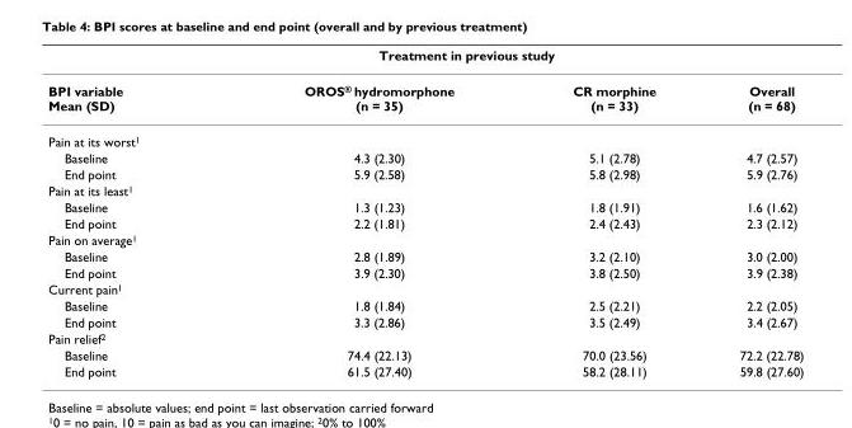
<table><thead><tr><td rowspan="2">BPI variable Mean (SD)</td><td colspan="2">Treatment in previous study</td><td rowspan="2">Overall (n = 68)</td></tr><tr><td>OROS® hydromorphone (n = 35)</td><td>CR morphine (n = 33)</td></tr></thead><tbody><tr><td colspan="4">Pain at its worst<sup>1</sup></td></tr><tr><td>Baseline</td><td>4.3 (2.30)</td><td>5.1 (2.78)</td><td>4.7 (2.57)</td></tr><tr><td>End point</td><td>5.9 (2.58)</td><td>5.8 (2.98)</td><td>5.9 (2.76)</td></tr><tr><td colspan="4">Pain at its least<sup>1</sup></td></tr><tr><td>Baseline</td><td>1.3 (1.23)</td><td>1.8 (1.91)</td><td>1.6 (1.62)</td></tr><tr><td>End point</td><td>2.2 (1.81)</td><td>2.4 (2.43)</td><td>2.3 (2.12)</td></tr><tr><td colspan="4">Pain on average<sup>1</sup></td></tr><tr><td>Baseline</td><td>2.8 (1.89)</td><td>3.2 (2.10)</td><td>3.0 (2.00)</td></tr><tr><td>End point</td><td>3.9 (2.30)</td><td>3.8 (2.50)</td><td>3.9 (2.38)</td></tr><tr><td colspan="4">Current pain<sup>1</sup></td></tr><tr><td>Baseline</td><td>1.8 (1.84)</td><td>2.5 (2.21)</td><td>2.2 (2.05)</td></tr><tr><td>End point</td><td>3.3 (2.86)</td><td>3.5 (2.49)</td><td>3.4 (2.67)</td></tr><tr><td colspan="4">Pain relief<sup>2</sup></td></tr><tr><td>Baseline</td><td>74.4 (22.13)</td><td>70.0 (23.56)</td><td>72.2 (22.78)</td></tr><tr><td>End point</td><td>61.5 (27.40)</td><td>58.2 (28.11)</td><td>59.8 (27.60)</td></tr></tbody></table>